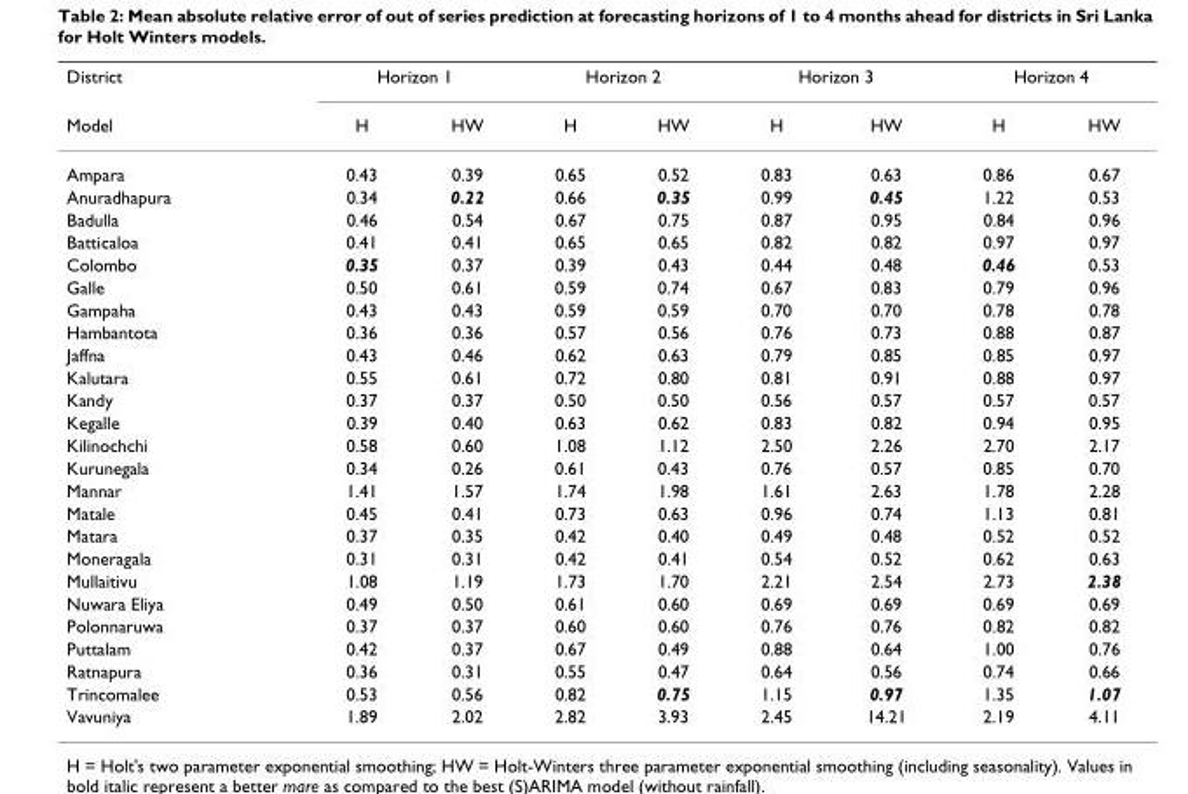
<table><thead><tr><td rowspan="2">District Model</td><td colspan="2">Horizon 1</td><td colspan="2">Horizon 2</td><td colspan="2">Horizon 3</td><td colspan="2">Horizon 4</td></tr><tr><td>H</td><td>HW</td><td>H</td><td>HW</td><td>H</td><td>HW</td><td>H</td><td>HW</td></tr></thead><tbody><tr><td>Ampara</td><td>0.43</td><td>0.39</td><td>0.65</td><td>0.52</td><td>0.83</td><td>0.63</td><td>0.86</td><td>0.67</td></tr><tr><td>Anuradhapura</td><td>0.34</td><td>0.22</td><td>0.66</td><td>0.35</td><td>0.99</td><td>0.45</td><td>1.22</td><td>0.53</td></tr><tr><td>Badulla</td><td>0.46</td><td>0.54</td><td>0.67</td><td>0.75</td><td>0.87</td><td>0.95</td><td>0.84</td><td>0.96</td></tr><tr><td>Batticaloa</td><td>0.41</td><td>0.41</td><td>0.65</td><td>0.65</td><td>0.82</td><td>0.82</td><td>0.97</td><td>0.97</td></tr><tr><td>Colombo</td><td>0.35</td><td>0.37</td><td>0.39</td><td>0.43</td><td>0.44</td><td>0.48</td><td>0.46</td><td>0.53</td></tr><tr><td>Galle</td><td>0.50</td><td>0.61</td><td>0.59</td><td>0.74</td><td>0.67</td><td>0.83</td><td>0.79</td><td>0.96</td></tr><tr><td>Gampaha</td><td>0.43</td><td>0.43</td><td>0.59</td><td>0.59</td><td>0.70</td><td>0.70</td><td>0.78</td><td>0.78</td></tr><tr><td>Hambantota</td><td>0.36</td><td>0.36</td><td>0.57</td><td>0.56</td><td>0.76</td><td>0.73</td><td>0.88</td><td>0.87</td></tr><tr><td>Jaffna</td><td>0.43</td><td>0.46</td><td>0.62</td><td>0.63</td><td>0.79</td><td>0.85</td><td>0.85</td><td>0.97</td></tr><tr><td>Kalutara</td><td>0.55</td><td>0.61</td><td>0.72</td><td>0.80</td><td>0.81</td><td>0.91</td><td>0.88</td><td>0.97</td></tr><tr><td>Kandy</td><td>0.37</td><td>0.37</td><td>0.50</td><td>0.50</td><td>0.56</td><td>0.57</td><td>0.57</td><td>0.57</td></tr><tr><td>Kegalle</td><td>0.39</td><td>0.40</td><td>0.63</td><td>0.62</td><td>0.83</td><td>0.82</td><td>0.94</td><td>0.95</td></tr><tr><td>Kilinochchi</td><td>0.58</td><td>0.60</td><td>1.08</td><td>1.12</td><td>2.50</td><td>2.26</td><td>2.70</td><td>2.17</td></tr><tr><td>Kurunegala</td><td>0.34</td><td>0.26</td><td>0.61</td><td>0.43</td><td>0.76</td><td>0.57</td><td>0.85</td><td>0.70</td></tr><tr><td>Mannar</td><td>1.41</td><td>1.57</td><td>1.74</td><td>1.98</td><td>1.61</td><td>2.63</td><td>1.78</td><td>2.28</td></tr><tr><td>Matale</td><td>0.45</td><td>0.41</td><td>0.73</td><td>0.63</td><td>0.96</td><td>0.74</td><td>1.13</td><td>0.81</td></tr><tr><td>Matara</td><td>0.37</td><td>0.35</td><td>0.42</td><td>0.40</td><td>0.49</td><td>0.48</td><td>0.52</td><td>0.52</td></tr><tr><td>Moneragala</td><td>0.31</td><td>0.31</td><td>0.42</td><td>0.41</td><td>0.54</td><td>0.52</td><td>0.62</td><td>0.63</td></tr><tr><td>Mullaitivu</td><td>1.08</td><td>1.19</td><td>1.73</td><td>1.70</td><td>2.21</td><td>2.54</td><td>2.73</td><td>2.38</td></tr><tr><td>Nuwara Eliya</td><td>0.49</td><td>0.50</td><td>0.61</td><td>0.60</td><td>0.69</td><td>0.69</td><td>0.69</td><td>0.69</td></tr><tr><td>Polonnaruwa</td><td>0.37</td><td>0.37</td><td>0.60</td><td>0.60</td><td>0.76</td><td>0.76</td><td>0.82</td><td>0.82</td></tr><tr><td>Puttalam</td><td>0.42</td><td>0.37</td><td>0.67</td><td>0.49</td><td>0.88</td><td>0.64</td><td>1.00</td><td>0.76</td></tr><tr><td>Ratnapura</td><td>0.36</td><td>0.31</td><td>0.55</td><td>0.47</td><td>0.64</td><td>0.56</td><td>0.74</td><td>0.66</td></tr><tr><td>Trincomalee</td><td>0.53</td><td>0.56</td><td>0.82</td><td>0.75</td><td>1.15</td><td>0.97</td><td>1.35</td><td>1.07</td></tr><tr><td>Vavuniya</td><td>1.89</td><td>2.02</td><td>2.82</td><td>3.93</td><td>2.45</td><td>14.21</td><td>2.19</td><td>4.11</td></tr></tbody></table>